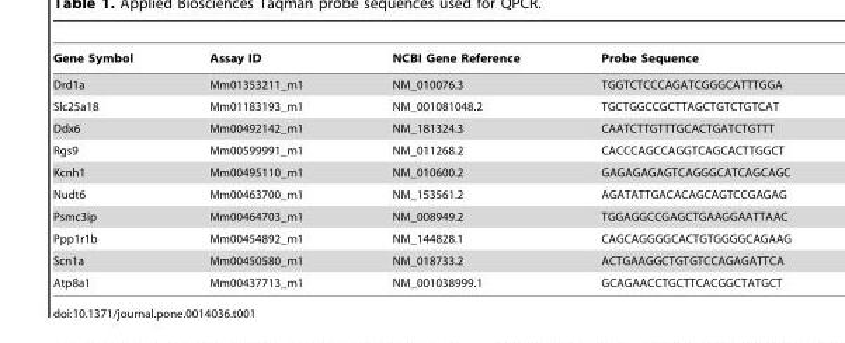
<table><thead><tr><td>Gene Symbol</td><td>Assay ID</td><td>NCBI Gene Reference</td><td>Probe Sequence</td></tr></thead><tbody><tr><td>Drd1a</td><td>Mm01353211_m1</td><td>NM_010076.3</td><td>TGGTCTCCCAGATCGGGCATTTGGA</td></tr><tr><td>Slc25a18</td><td>Mm01183193_m1</td><td>NM_001081048.2</td><td>TGCTGGCCGCTTAGCTGTCTGTCAT</td></tr><tr><td>Ddx6</td><td>Mm00492142_m1</td><td>NM_181324.3</td><td>CAATCTTGTTTGCACTGATCTGTTT</td></tr><tr><td>Rgs9</td><td>Mm00599991_m1</td><td>NM_011268.2</td><td>CACCCAGCCAGGTCAGCACTTGGCT</td></tr><tr><td>Kcnh1</td><td>Mm00495110_m1</td><td>NM_010600.2</td><td>GAGAGAGAGTCAGGGCATCAGCAGC</td></tr><tr><td>Nudt6</td><td>Mm00463700_m1</td><td>NM_153561.2</td><td>AGATATTGACACAGCAGTCCGAGAG</td></tr><tr><td>Psmc3ip</td><td>Mm00464703_m1</td><td>NM_008949.2</td><td>TGGAGGCCGAGCTGAAGGAATTAAC</td></tr><tr><td>Ppp1r1b</td><td>Mm00454892_m1</td><td>NM_144828.1</td><td>CAGCAGGGGCACTGTGGGGCAGAAG</td></tr><tr><td>Scn1a</td><td>Mm00450580_m1</td><td>NM_018733.2</td><td>ACTGAAGGCTGTGTCCAGAGATTCA</td></tr><tr><td>Atp8a1</td><td>Mm00437713_m1</td><td>NM_001038999.1</td><td>GCAGAACCTGCTTCACGGCTATGCT</td></tr></tbody></table>